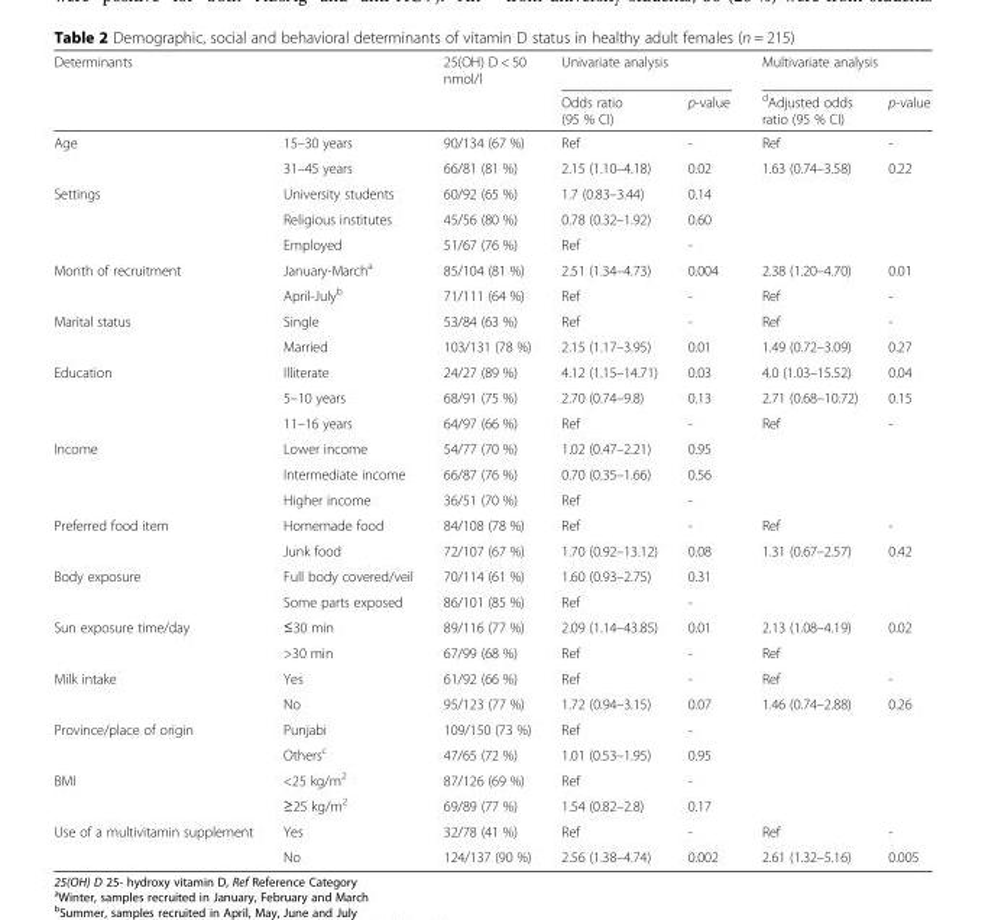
<table><thead><tr><td rowspan="2">Determinants</td><td rowspan="2"></td><td rowspan="2">25(OH) D &lt; 50 nmol/l</td><td colspan="2">Univariate analysis</td><td colspan="2">Multivariate analysis</td></tr><tr><td>Odds ratio (95 % CI)</td><td>p-value</td><td><sup>d</sup>Adjusted odds ratio (95 % CI)</td><td>p-value</td></tr></thead><tbody><tr><td rowspan="2">Age</td><td>15–30 years</td><td>90/134 (67 %)</td><td>Ref</td><td>-</td><td>Ref</td><td>-</td></tr><tr><td>31–45 years</td><td>66/81 (81 %)</td><td>2.15 (1.10–4.18)</td><td>0.02</td><td>1.63 (0.74–3.58)</td><td>0.22</td></tr><tr><td rowspan="3">Settings</td><td>University students</td><td>60/92 (65 %)</td><td>1.7 (0.83–3.44)</td><td>0.14</td><td></td><td></td></tr><tr><td>Religious institutes</td><td>45/56 (80 %)</td><td>0.78 (0.32–1.92)</td><td>0.60</td><td></td><td></td></tr><tr><td>Employed</td><td>51/67 (76 %)</td><td>Ref</td><td>-</td><td></td><td></td></tr><tr><td rowspan="2">Month of recruitment</td><td>January-March<sup>a</sup></td><td>85/104 (81 %)</td><td>2.51 (1.34–4.73)</td><td>0.004</td><td>2.38 (1.20–4.70)</td><td>0.01</td></tr><tr><td>April-July<sup>b</sup></td><td>71/111 (64 %)</td><td>Ref</td><td>-</td><td>Ref</td><td>-</td></tr><tr><td rowspan="2">Marital status</td><td>Single</td><td>53/84 (63 %)</td><td>Ref</td><td>-</td><td>Ref</td><td>-</td></tr><tr><td>Married</td><td>103/131 (78 %)</td><td>2.15 (1.17–3.95)</td><td>0.01</td><td>1.49 (0.72–3.09)</td><td>0.27</td></tr><tr><td rowspan="3">Education</td><td>Illiterate</td><td>24/27 (89 %)</td><td>4.12 (1.15–14.71)</td><td>0.03</td><td>4.0 (1.03–15.52)</td><td>0.04</td></tr><tr><td>5–10 years</td><td>68/91 (75 %)</td><td>2.70 (0.74–9.8)</td><td>0.13</td><td>2.71 (0.68–10.72)</td><td>0.15</td></tr><tr><td>11–16 years</td><td>64/97 (66 %)</td><td>Ref</td><td>-</td><td>Ref</td><td>-</td></tr><tr><td rowspan="3">Income</td><td>Lower income</td><td>54/77 (70 %)</td><td>1.02 (0.47–2.21)</td><td>0.95</td><td></td><td></td></tr><tr><td>Intermediate income</td><td>66/87 (76 %)</td><td>0.70 (0.35–1.66)</td><td>0.56</td><td></td><td></td></tr><tr><td>Higher income</td><td>36/51 (70 %)</td><td>Ref</td><td>-</td><td></td><td></td></tr><tr><td rowspan="2">Preferred food item</td><td>Homemade food</td><td>84/108 (78 %)</td><td>Ref</td><td>-</td><td>Ref</td><td>-</td></tr><tr><td>Junk food</td><td>72/107 (67 %)</td><td>1.70 (0.92–13.12)</td><td>0.08</td><td>1.31 (0.67–2.57)</td><td>0.42</td></tr><tr><td rowspan="2">Body exposure</td><td>Full body covered/veil</td><td>70/114 (61 %)</td><td>1.60 (0.93–2.75)</td><td>0.31</td><td></td><td></td></tr><tr><td>Some parts exposed</td><td>86/101 (85 %)</td><td>Ref</td><td>-</td><td></td><td></td></tr><tr><td rowspan="2">Sun exposure time/day</td><td>≤30 min</td><td>89/116 (77 %)</td><td>2.09 (1.14–43.85)</td><td>0.01</td><td>2.13 (1.08–4.19)</td><td>0.02</td></tr><tr><td>&gt;30 min</td><td>67/99 (68 %)</td><td>Ref</td><td>-</td><td>Ref</td><td></td></tr><tr><td rowspan="2">Milk intake</td><td>Yes</td><td>61/92 (66 %)</td><td>Ref</td><td>-</td><td>Ref</td><td>-</td></tr><tr><td>No</td><td>95/123 (77 %)</td><td>1.72 (0.94–3.15)</td><td>0.07</td><td>1.46 (0.74–2.88)</td><td>0.26</td></tr><tr><td rowspan="2">Province/place of origin</td><td>Punjabi</td><td>109/150 (73 %)</td><td>Ref</td><td>-</td><td></td><td></td></tr><tr><td>Others<sup>c</sup></td><td>47/65 (72 %)</td><td>1.01 (0.53–1.95)</td><td>0.95</td><td></td><td></td></tr><tr><td rowspan="2">BMI</td><td>&lt;25 kg/m<sup>2</sup></td><td>87/126 (69 %)</td><td>Ref</td><td>-</td><td></td><td></td></tr><tr><td>≥25 kg/m<sup>2</sup></td><td>69/89 (77 %)</td><td>1.54 (0.82–2.8)</td><td>0.17</td><td></td><td></td></tr><tr><td rowspan="2">Use of a multivitamin supplement</td><td>Yes</td><td>32/78 (41 %)</td><td>Ref</td><td>-</td><td>Ref</td><td>-</td></tr><tr><td>No</td><td>124/137 (90 %)</td><td>2.56 (1.38–4.74)</td><td>0.002</td><td>2.61 (1.32–5.16)</td><td>0.005</td></tr></tbody></table>